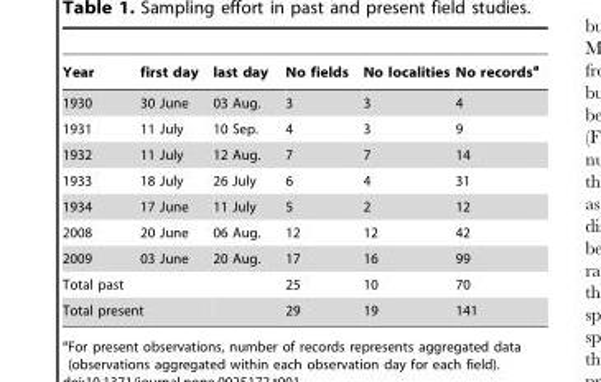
<table><thead><tr><td>Year</td><td>first day</td><td>last day</td><td>No fields</td><td>No localities</td><td>No records<sup>a</sup></td></tr></thead><tbody><tr><td>1930</td><td>30 June</td><td>03 Aug.</td><td>3</td><td>3</td><td>4</td></tr><tr><td>1931</td><td>11 July</td><td>10 Sep.</td><td>4</td><td>3</td><td>9</td></tr><tr><td>1932</td><td>11 July</td><td>12 Aug.</td><td>7</td><td>7</td><td>14</td></tr><tr><td>1933</td><td>18 July</td><td>26 July</td><td>6</td><td>4</td><td>31</td></tr><tr><td>1934</td><td>17 June</td><td>11 July</td><td>5</td><td>2</td><td>12</td></tr><tr><td>2008</td><td>20 June</td><td>06 Aug.</td><td>12</td><td>12</td><td>42</td></tr><tr><td>2009</td><td>03 June</td><td>20 Aug.</td><td>17</td><td>16</td><td>99</td></tr><tr><td colspan="2">Total past</td><td></td><td>25</td><td>10</td><td>70</td></tr><tr><td colspan="2">Total present</td><td></td><td>29</td><td>19</td><td>141</td></tr></tbody></table>